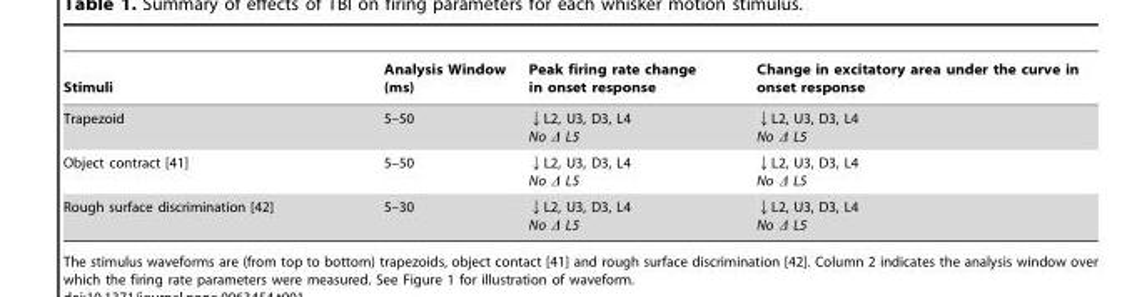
<table><thead><tr><td>Stimuli</td><td>Analysis Window (ms)</td><td>Peak firing rate change in onset response</td><td>Change in excitatory area under the curve in onset response</td></tr></thead><tbody><tr><td>Trapezoid</td><td>5–50</td><td>↓L2, U3, D3, L4 No Δ L5</td><td>↓L2, U3, D3, L4 No Δ L5</td></tr><tr><td>Object contract [41]</td><td>5–50</td><td>↓L2, U3, D3, L4 No Δ L5</td><td>↓L2, U3, D3, L4 No Δ L5</td></tr><tr><td>Rough surface discrimination [42]</td><td>5–30</td><td>↓L2, U3, D3, L4 No Δ L5</td><td>↓L2, U3, D3, L4 No Δ L5</td></tr></tbody></table>